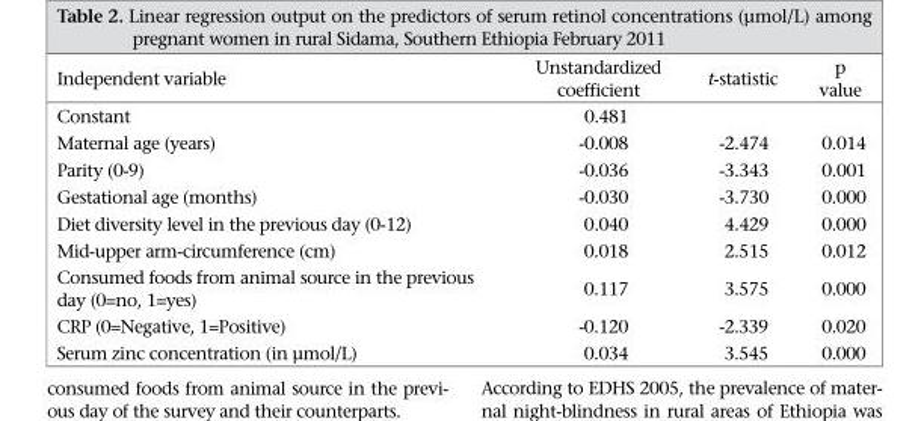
<table><thead><tr><td>Independent variable</td><td>Unstandardized coefficient</td><td>t-statistic</td><td>p value</td></tr></thead><tbody><tr><td>Constant</td><td>0.481</td><td></td><td></td></tr><tr><td>Maternal age (years)</td><td>-0.008</td><td>-2.474</td><td>0.014</td></tr><tr><td>Parity (0-9)</td><td>-0.036</td><td>-3.343</td><td>0.001</td></tr><tr><td>Gestational age (months)</td><td>-0.030</td><td>-3.730</td><td>0.000</td></tr><tr><td>Diet diversity level in the previous day (0-12)</td><td>0.040</td><td>4.429</td><td>0.000</td></tr><tr><td>Mid-upper arm-circumference (cm)</td><td>0.018</td><td>2.515</td><td>0.012</td></tr><tr><td>Consumed foods from animal source in the previous day (0=no, 1=yes)</td><td>0.117</td><td>3.575</td><td>0.000</td></tr><tr><td>CRP (0=Negative, 1=Positive)</td><td>-0.120</td><td>-2.339</td><td>0.020</td></tr><tr><td>Serum zinc concentration (in μmol/L)</td><td>0.034</td><td>3.545</td><td>0.000</td></tr></tbody></table>